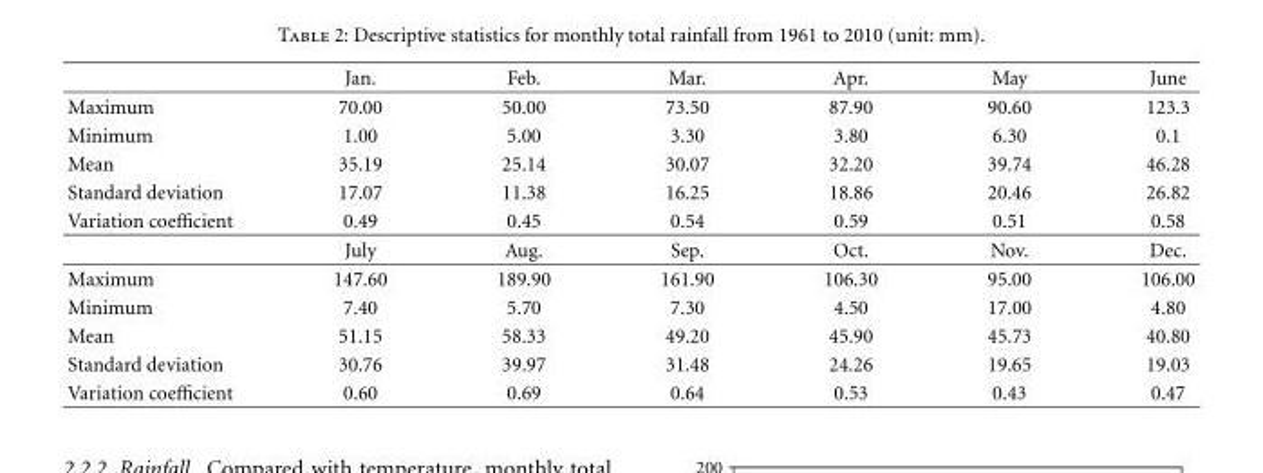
<table><thead><tr><td></td><td>Jan.</td><td>Feb.</td><td>Mar.</td><td>Apr.</td><td>May</td><td>June</td></tr></thead><tbody><tr><td>Maximum</td><td>70.00</td><td>50.00</td><td>73.50</td><td>87.90</td><td>90.60</td><td>123.3</td></tr><tr><td>Minimum</td><td>1.00</td><td>5.00</td><td>3.30</td><td>3.80</td><td>6.30</td><td>0.1</td></tr><tr><td>Mean</td><td>35.19</td><td>25.14</td><td>30.07</td><td>32.20</td><td>39.74</td><td>46.28</td></tr><tr><td>Standard deviation</td><td>17.07</td><td>11.38</td><td>16.25</td><td>18.86</td><td>20.46</td><td>26.82</td></tr><tr><td rowspan="2">Variation coefficient</td><td>0.49</td><td>0.45</td><td>0.54</td><td>0.59</td><td>0.51</td><td>0.58</td></tr><tr><td>July</td><td>Aug.</td><td>Sep.</td><td>Oct.</td><td>Nov.</td><td>Dec.</td></tr><tr><td>Maximum</td><td>147.60</td><td>189.90</td><td>161.90</td><td>106.30</td><td>95.00</td><td>106.00</td></tr><tr><td>Minimum</td><td>7.40</td><td>5.70</td><td>7.30</td><td>4.50</td><td>17.00</td><td>4.80</td></tr><tr><td>Mean</td><td>51.15</td><td>58.33</td><td>49.20</td><td>45.90</td><td>45.73</td><td>40.80</td></tr><tr><td>Standard deviation</td><td>30.76</td><td>39.97</td><td>31.48</td><td>24.26</td><td>19.65</td><td>19.03</td></tr><tr><td>Variation coefficient</td><td>0.60</td><td>0.69</td><td>0.64</td><td>0.53</td><td>0.43</td><td>0.47</td></tr></tbody></table>